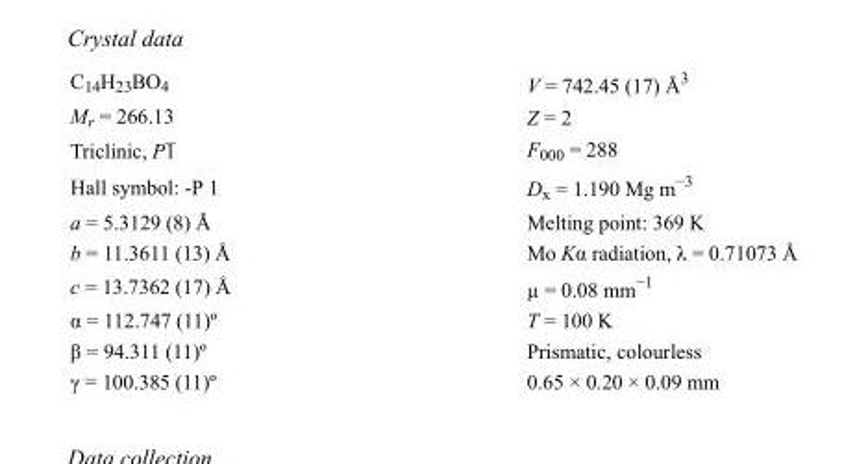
<table><tbody><tr><td>C<sub>14</sub>H<sub>23</sub>BO<sub>4</sub></td><td>V = 742.45 (17) Å<sup>3</sup></td></tr><tr><td>M<sub>r</sub> = 266.13</td><td>Z = 2</td></tr><tr><td>Triclinic, P1</td><td>F000 = 288</td></tr><tr><td>Hall symbol: -P 1</td><td>D<sub>x</sub> = 1.190 Mg m<sup>−3</sup></td></tr><tr><td>a = 5.3129 (8) Å</td><td>Melting point: 369 K</td></tr><tr><td>b = 11.3611 (13) Å</td><td>Mo Kα radiation, λ = 0.71073 Å</td></tr><tr><td>c = 13.7362 (17) Å</td><td>µ = 0.08 mm<sup>−1</sup></td></tr><tr><td>α = 112.747 (11)º</td><td>T = 100 K</td></tr><tr><td>β = 94.311 (11)º</td><td>Prismatic, colourless</td></tr><tr><td>γ = 100.385 (11)º</td><td>0.65 × 0.20 × 0.09 mm</td></tr></tbody></table>